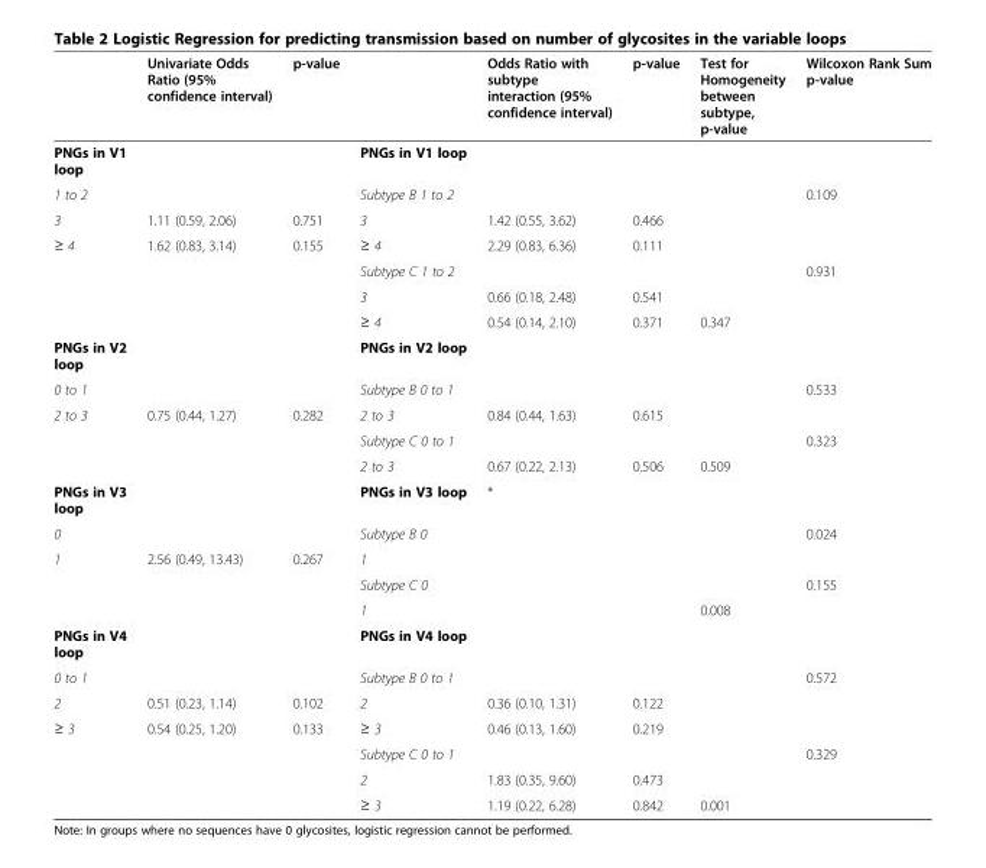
<table><thead><tr><td></td><td>Univariate Odds Ratio (95% confidence interval)</td><td>p-value</td><td></td><td>Odds Ratio with subtype interaction (95% confidence interval)</td><td>p-value</td><td>Test for Homogeneity between subtype, p-value</td><td>Wilcoxon Rank Sum p-value</td></tr></thead><tbody><tr><td>PNGs in V1 loop</td><td></td><td></td><td>PNGs in V1 loop</td><td></td><td></td><td></td><td></td></tr><tr><td>1 to 2</td><td></td><td></td><td>Subtype B 1 to 2</td><td></td><td></td><td></td><td>0.109</td></tr><tr><td>3</td><td>1.11 (0.59, 2.06)</td><td>0.751</td><td>3</td><td>1.42 (0.55, 3.62)</td><td>0.466</td><td></td><td></td></tr><tr><td rowspan="4">≥ 4</td><td>1.62 (0.83, 3.14)</td><td>0.155</td><td>≥ 4</td><td>2.29 (0.83, 6.36)</td><td>0.111</td><td></td><td></td></tr><tr><td></td><td></td><td>Subtype C 1 to 2</td><td></td><td></td><td></td><td>0.931</td></tr><tr><td></td><td></td><td>3</td><td>0.66 (0.18, 2.48)</td><td>0.541</td><td></td><td></td></tr><tr><td></td><td></td><td>≥ 4</td><td>0.54 (0.14, 2.10)</td><td>0.371</td><td>0.347</td><td></td></tr><tr><td>PNGs in V2 loop</td><td></td><td></td><td>PNGs in V2 loop</td><td></td><td></td><td></td><td></td></tr><tr><td>0 to 1</td><td></td><td></td><td>Subtype B 0 to 1</td><td></td><td></td><td></td><td>0.533</td></tr><tr><td rowspan="3">2 to 3</td><td>0.75 (0.44, 1.27)</td><td>0.282</td><td>2 to 3</td><td>0.84 (0.44, 1.63)</td><td>0.615</td><td></td><td></td></tr><tr><td></td><td></td><td>Subtype C 0 to 1</td><td></td><td></td><td></td><td>0.323</td></tr><tr><td></td><td></td><td>2 to 3</td><td>0.67 (0.22, 2.13)</td><td>0.506</td><td>0.509</td><td></td></tr><tr><td>PNGs in V3 loop</td><td></td><td></td><td>PNGs in V3 loop</td><td>*</td><td></td><td></td><td></td></tr><tr><td>0</td><td></td><td></td><td>Subtype B 0</td><td></td><td></td><td></td><td>0.024</td></tr><tr><td rowspan="3">1</td><td>2.56 (0.49, 13.43)</td><td>0.267</td><td>1</td><td></td><td></td><td></td><td></td></tr><tr><td></td><td></td><td>Subtype C 0</td><td></td><td></td><td></td><td>0.155</td></tr><tr><td></td><td></td><td>1</td><td></td><td></td><td>0.008</td><td></td></tr><tr><td>PNGs in V4 loop</td><td></td><td></td><td>PNGs in V4 loop</td><td></td><td></td><td></td><td></td></tr><tr><td>0 to 1</td><td></td><td></td><td>Subtype B 0 to 1</td><td></td><td></td><td></td><td>0.572</td></tr><tr><td>2</td><td>0.51 (0.23, 1.14)</td><td>0.102</td><td>2</td><td>0.36 (0.10, 1.31)</td><td>0.122</td><td></td><td></td></tr><tr><td rowspan="4">≥ 3</td><td>0.54 (0.25, 1.20)</td><td>0.133</td><td>≥ 3</td><td>0.46 (0.13, 1.60)</td><td>0.219</td><td></td><td></td></tr><tr><td></td><td></td><td>Subtype C 0 to 1</td><td></td><td></td><td></td><td>0.329</td></tr><tr><td></td><td></td><td>2</td><td>1.83 (0.35, 9.60)</td><td>0.473</td><td></td><td></td></tr><tr><td></td><td></td><td>≥ 3</td><td>1.19 (0.22, 6.28)</td><td>0.842</td><td>0.001</td><td></td></tr></tbody></table>